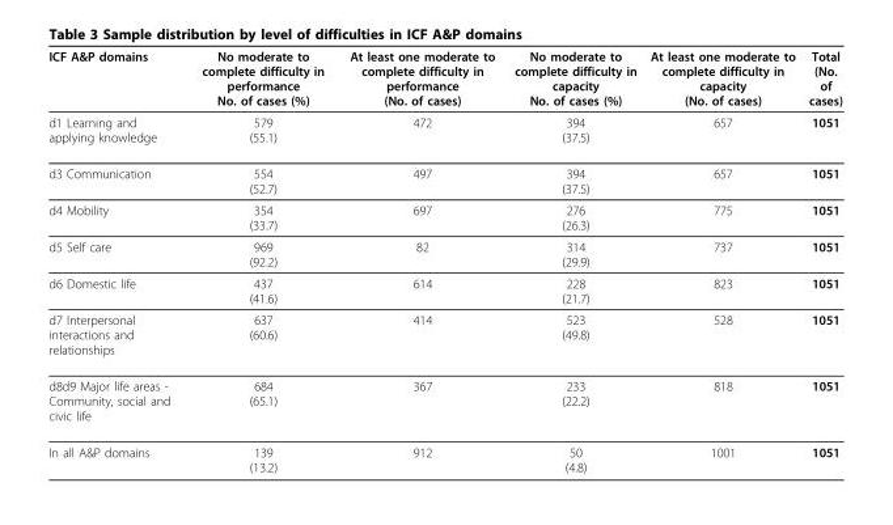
<table><thead><tr><td>ICF A&amp;P domains</td><td>No moderate to complete difficulty in performance No. of cases (%)</td><td>At least one moderate to complete difficulty in performance (No. of cases)</td><td>No moderate to complete difficulty in capacity No. of cases (%)</td><td>At least one moderate to complete difficulty in capacity (No. of cases)</td><td>Total (No. of cases)</td></tr></thead><tbody><tr><td>d1 Learning and applying knowledge</td><td>579 (55.1)</td><td>472</td><td>394 (37.5)</td><td>657</td><td>1051</td></tr><tr><td>d3 Communication</td><td>554 (52.7)</td><td>497</td><td>394 (37.5)</td><td>657</td><td>1051</td></tr><tr><td>d4 Mobility</td><td>354 (33.7)</td><td>697</td><td>276 (26.3)</td><td>775</td><td>1051</td></tr><tr><td>d5 Self care</td><td>969 (92.2)</td><td>82</td><td>314 (29.9)</td><td>737</td><td>1051</td></tr><tr><td>d6 Domestic life</td><td>437 (41.6)</td><td>614</td><td>228 (21.7)</td><td>823</td><td>1051</td></tr><tr><td>d7 Interpersonal interactions and relationships</td><td>637 (60.6)</td><td>414</td><td>523 (49.8)</td><td>528</td><td>1051</td></tr><tr><td>d8d9 Major life areas - Community, social and civic life</td><td>684 (65.1)</td><td>367</td><td>233 (22.2)</td><td>818</td><td>1051</td></tr><tr><td>In all A&amp;P domains</td><td>139 (13.2)</td><td>912</td><td>50 (4.8)</td><td>1001</td><td>1051</td></tr></tbody></table>